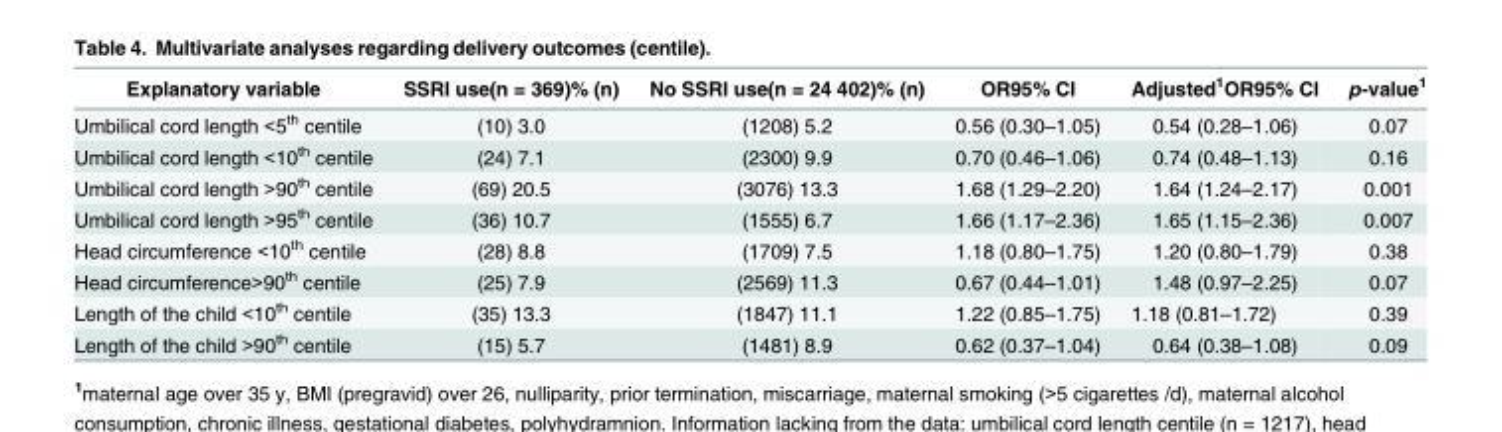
<table><thead><tr><td>Explanatory variable</td><td>SSRI use(n = 369)% (n)</td><td>No SSRI use(n = 24 402)% (n)</td><td>OR95% CI</td><td>Adjusted<sup>1</sup>OR95% CI</td><td>p-value<sup>1</sup></td></tr></thead><tbody><tr><td>Umbilical cord length &lt;5<sup>th</sup> centile</td><td>(10) 3.0</td><td>(1208) 5.2</td><td>0.56 (0.30–1.05)</td><td>0.54 (0.28–1.06)</td><td>0.07</td></tr><tr><td>Umbilical cord length &lt;10<sup>th</sup> centile</td><td>(24) 7.1</td><td>(2300) 9.9</td><td>0.70 (0.46–1.06)</td><td>0.74 (0.48–1.13)</td><td>0.16</td></tr><tr><td>Umbilical cord length &gt;90<sup>th</sup> centile</td><td>(69) 20.5</td><td>(3076) 13.3</td><td>1.68 (1.29–2.20)</td><td>1.64 (1.24–2.17)</td><td>0.001</td></tr><tr><td>Umbilical cord length &gt;95<sup>th</sup> centile</td><td>(36) 10.7</td><td>(1555) 6.7</td><td>1.66 (1.17–2.36)</td><td>1.65 (1.15–2.36)</td><td>0.007</td></tr><tr><td>Head circumference &lt;10<sup>th</sup> centile</td><td>(28) 8.8</td><td>(1709) 7.5</td><td>1.18 (0.80–1.75)</td><td>1.20 (0.80–1.79)</td><td>0.38</td></tr><tr><td>Head circumference&gt;90<sup>th</sup> centile</td><td>(25) 7.9</td><td>(2569) 11.3</td><td>0.67 (0.44–1.01)</td><td>1.48 (0.97–2.25)</td><td>0.07</td></tr><tr><td>Length of the child &lt;10<sup>th</sup> centile</td><td>(35) 13.3</td><td>(1847) 11.1</td><td>1.22 (0.85–1.75)</td><td>1.18 (0.81–1.72)</td><td>0.39</td></tr><tr><td>Length of the child &gt;90<sup>th</sup> centile</td><td>(15) 5.7</td><td>(1481) 8.9</td><td>0.62 (0.37–1.04)</td><td>0.64 (0.38–1.08)</td><td>0.09</td></tr></tbody></table>